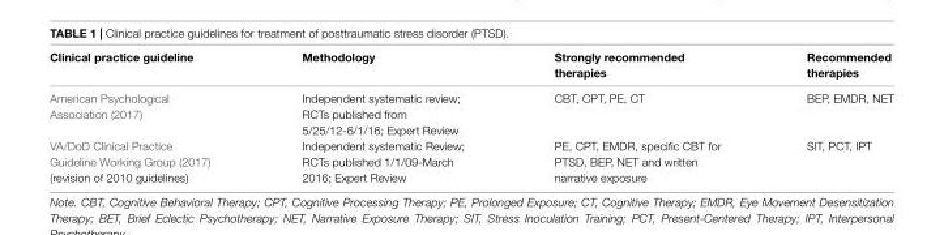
<table><thead><tr><td>Clinical practice guideline</td><td>Methodology</td><td>Strongly recommended therapies</td><td>Recommended therapies</td></tr></thead><tbody><tr><td>American Psychological Association (2017)</td><td>Independent systematic review; RCTs published from 5/25/12-6/1/16; Expert Review</td><td>CBT, CPT, PE, CT</td><td>BEP, EMDR, NET</td></tr><tr><td>VA/DoD Clinical Practice Guideline Working Group (2017) (revision of 2010 guidelines)</td><td>Independent systematic Review; RCTs published 1/1/09-March 2016; Expert Review</td><td>PE, CPT, EMDR, specific CBT for PTSD, BEP, NET and written narrative exposure</td><td>SIT, PCT, IPT</td></tr></tbody></table>